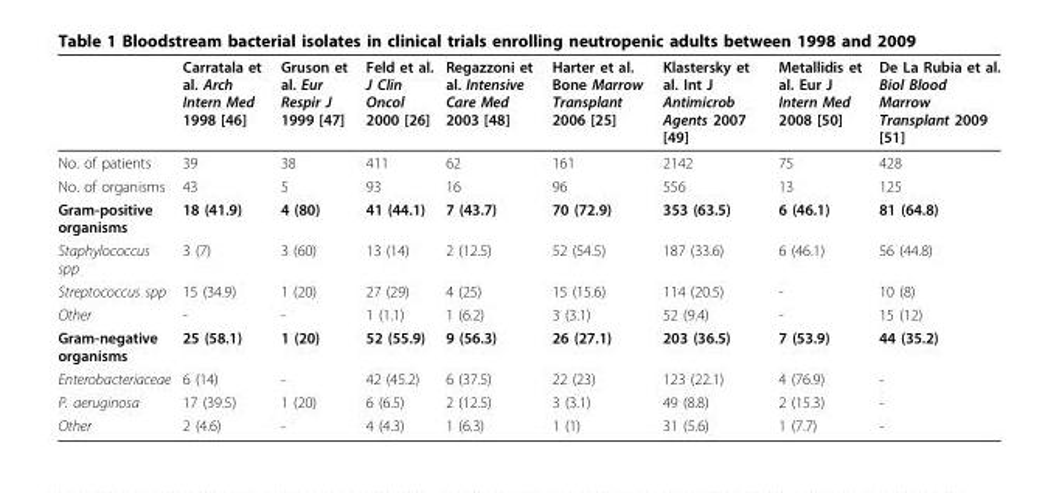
<table><thead><tr><td></td><td>Carratala et al. Arch Intern Med 1998 [46]</td><td>Gruson et al. Eur Respir J 1999 [47]</td><td>Feld et al. J Clin Oncol 2000 [26]</td><td>Regazzoni et al. Intensive Care Med 2003 [48]</td><td>Harter et al. Bone Marrow Transplant 2006 [25]</td><td>Klastersky et al. Int J Antimicrob Agents 2007 [49]</td><td>Metallidis et al. Eur J Intern Med 2008 [50]</td><td>De La Rubia et al. Biol Blood Marrow Transplant 2009 [51]</td></tr></thead><tbody><tr><td>No. of patients</td><td>39</td><td>38</td><td>411</td><td>62</td><td>161</td><td>2142</td><td>75</td><td>428</td></tr><tr><td>No. of organisms</td><td>43</td><td>5</td><td>93</td><td>16</td><td>96</td><td>556</td><td>13</td><td>125</td></tr><tr><td>Gram-positive organisms</td><td>18 (41.9)</td><td>4 (80)</td><td>41 (44.1)</td><td>7 (43.7)</td><td>70 (72.9)</td><td>353 (63.5)</td><td>6 (46.1)</td><td>81 (64.8)</td></tr><tr><td>Staphylococcus spp</td><td>3 (7)</td><td>3 (60)</td><td>13 (14)</td><td>2 (12.5)</td><td>52 (54.5)</td><td>187 (33.6)</td><td>6 (46.1)</td><td>56 (44.8)</td></tr><tr><td>Streptococcus spp</td><td>15 (34.9)</td><td>1 (20)</td><td>27 (29)</td><td>4 (25)</td><td>15 (15.6)</td><td>114 (20.5)</td><td>-</td><td>10 (8)</td></tr><tr><td>Other</td><td>-</td><td>-</td><td>1 (1.1)</td><td>1 (6.2)</td><td>3 (3.1)</td><td>52 (9.4)</td><td>-</td><td>15 (12)</td></tr><tr><td>Gram-negative organisms</td><td>25 (58.1)</td><td>1 (20)</td><td>52 (55.9)</td><td>9 (56.3)</td><td>26 (27.1)</td><td>203 (36.5)</td><td>7 (53.9)</td><td>44 (35.2)</td></tr><tr><td>Enterobacteriaceae</td><td>6 (14)</td><td>-</td><td>42 (45.2)</td><td>6 (37.5)</td><td>22 (23)</td><td>123 (22.1)</td><td>4 (76.9)</td><td>-</td></tr><tr><td>P. aeruginosa</td><td>17 (39.5)</td><td>1 (20)</td><td>6 (6.5)</td><td>2 (12.5)</td><td>3 (3.1)</td><td>49 (8.8)</td><td>2 (15.3)</td><td>-</td></tr><tr><td>Other</td><td>2 (4.6)</td><td>-</td><td>4 (4.3)</td><td>1 (6.3)</td><td>1 (1)</td><td>31 (5.6)</td><td>1 (7.7)</td><td>-</td></tr></tbody></table>